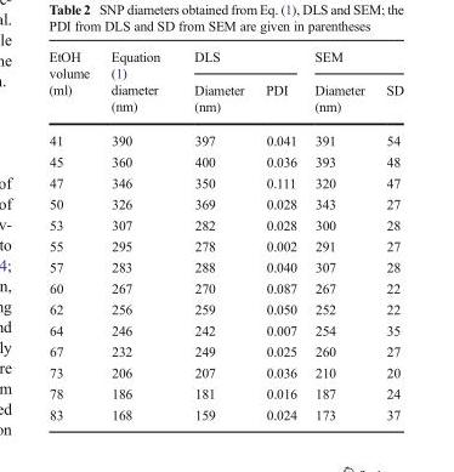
<table><thead><tr><td rowspan="2">EtOH volume (ml)</td><td rowspan="2">Equation (1) diameter (nm)</td><td colspan="2">DLS</td><td colspan="2">SEM</td></tr><tr><td>Diameter (nm)</td><td>PDI</td><td>Diameter (nm)</td><td>SD</td></tr></thead><tbody><tr><td>41</td><td>390</td><td>397</td><td>0.041</td><td>391</td><td>54</td></tr><tr><td>45</td><td>360</td><td>400</td><td>0.036</td><td>393</td><td>48</td></tr><tr><td>47</td><td>346</td><td>350</td><td>0.111</td><td>320</td><td>47</td></tr><tr><td>50</td><td>326</td><td>369</td><td>0.028</td><td>343</td><td>27</td></tr><tr><td>53</td><td>307</td><td>282</td><td>0.028</td><td>300</td><td>28</td></tr><tr><td>55</td><td>295</td><td>278</td><td>0.002</td><td>291</td><td>27</td></tr><tr><td>57</td><td>283</td><td>288</td><td>0.040</td><td>307</td><td>28</td></tr><tr><td>60</td><td>267</td><td>270</td><td>0.087</td><td>267</td><td>22</td></tr><tr><td>62</td><td>256</td><td>259</td><td>0.050</td><td>252</td><td>22</td></tr><tr><td>64</td><td>246</td><td>242</td><td>0.007</td><td>254</td><td>35</td></tr><tr><td>67</td><td>232</td><td>249</td><td>0.025</td><td>260</td><td>27</td></tr><tr><td>73</td><td>206</td><td>207</td><td>0.036</td><td>210</td><td>20</td></tr><tr><td>78</td><td>186</td><td>181</td><td>0.016</td><td>187</td><td>24</td></tr><tr><td>83</td><td>168</td><td>159</td><td>0.024</td><td>173</td><td>37</td></tr></tbody></table>